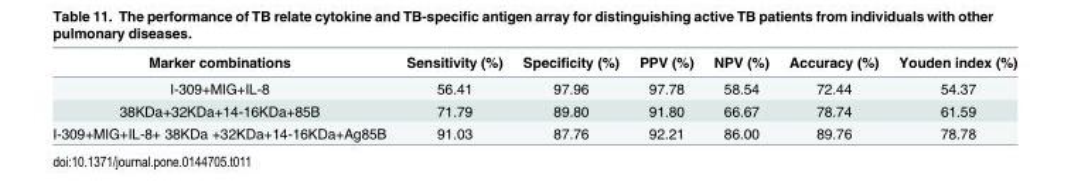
<table><thead><tr><td>Marker combinations</td><td>Sensitivity (%)</td><td>Specificity (%)</td><td>PPV (%)</td><td>NPV (%)</td><td>Accuracy (%)</td><td>Youden index (%)</td></tr></thead><tbody><tr><td>I-309+MIG+IL-8</td><td>56.41</td><td>97.96</td><td>97.78</td><td>58.54</td><td>72.44</td><td>54.37</td></tr><tr><td>38KDa+32KDa+14-16KDa+85B</td><td>71.79</td><td>89.80</td><td>91.80</td><td>66.67</td><td>78.74</td><td>61.59</td></tr><tr><td>I-309+MIG+IL-8+ 38KDa +32KDa+14-16KDa+Ag85B</td><td>91.03</td><td>87.76</td><td>92.21</td><td>86.00</td><td>89.76</td><td>78.78</td></tr></tbody></table>